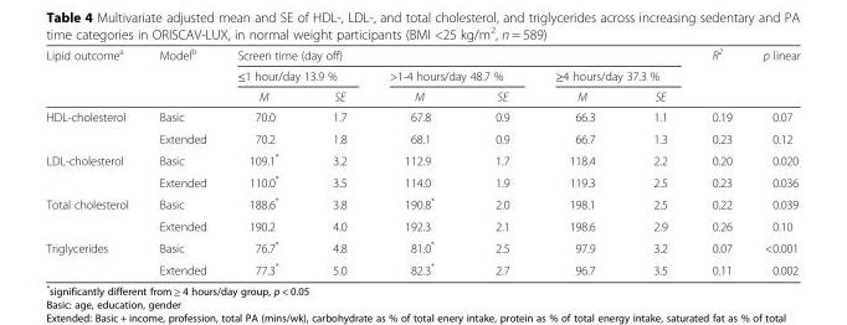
<table><thead><tr><td rowspan="3">Lipid outcome<sup>a</sup></td><td rowspan="3">Model<sup>b</sup></td><td colspan="6">Screen time (day off)</td><td rowspan="3">R<sup>2</sup></td><td rowspan="3">p linear</td></tr><tr><td colspan="2">≤1 hour/day 13.9 %</td><td colspan="2">&gt;1-4 hours/day 48.7 %</td><td colspan="2">≥4 hours/day 37.3 %</td></tr><tr><td>M</td><td>SE</td><td>M</td><td>SE</td><td>M</td><td>SE</td></tr></thead><tbody><tr><td rowspan="2">HDL-cholesterol</td><td>Basic</td><td>70.0</td><td>1.7</td><td>67.8</td><td>0.9</td><td>66.3</td><td>1.1</td><td>0.19</td><td>0.07</td></tr><tr><td>Extended</td><td>70.2</td><td>1.8</td><td>68.1</td><td>0.9</td><td>66.7</td><td>1.3</td><td>0.23</td><td>0.12</td></tr><tr><td rowspan="2">LDL-cholesterol</td><td>Basic</td><td>109.1*</td><td>3.2</td><td>112.9</td><td>1.7</td><td>118.4</td><td>2.2</td><td>0.20</td><td>0.020</td></tr><tr><td>Extended</td><td>110.0*</td><td>3.5</td><td>114.0</td><td>1.9</td><td>119.3</td><td>2.5</td><td>0.23</td><td>0.036</td></tr><tr><td rowspan="2">Total cholesterol</td><td>Basic</td><td>188.6*</td><td>3.8</td><td>190.8*</td><td>2.0</td><td>198.1</td><td>2.5</td><td>0.22</td><td>0.039</td></tr><tr><td>Extended</td><td>190.2</td><td>4.0</td><td>192.3</td><td>2.1</td><td>198.6</td><td>2.9</td><td>0.26</td><td>0.10</td></tr><tr><td rowspan="2">Triglycerides</td><td>Basic</td><td>76.7*</td><td>4.8</td><td>81.0*</td><td>2.5</td><td>97.9</td><td>3.2</td><td>0.07</td><td>&lt;0.001</td></tr><tr><td>Extended</td><td>77.3*</td><td>5.0</td><td>82.3*</td><td>2.7</td><td>96.7</td><td>3.5</td><td>0.11</td><td>0.002</td></tr></tbody></table>